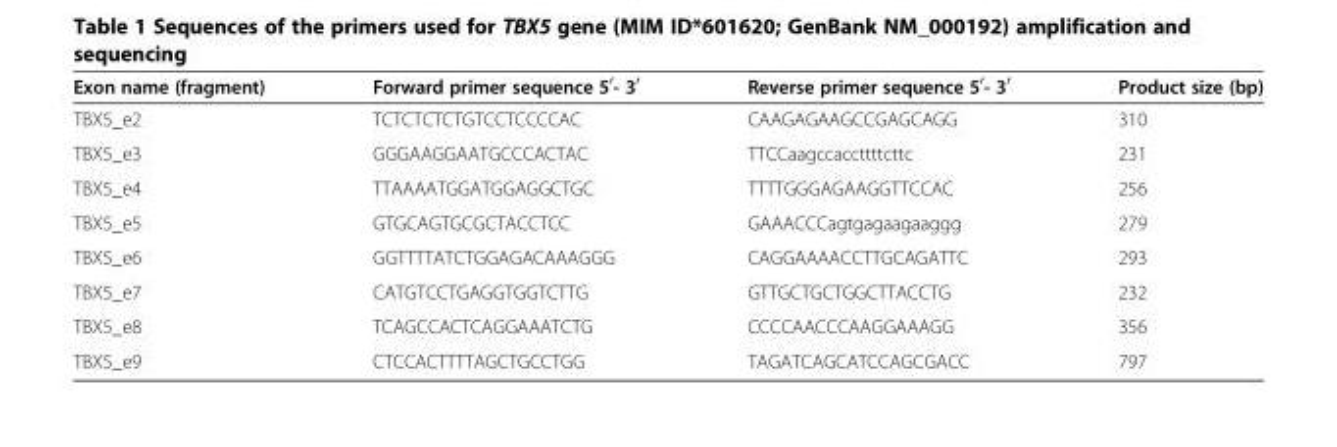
<table><thead><tr><td>Exon name (fragment)</td><td>Forward primer sequence 5<sup>′</sup>- 3<sup>′</sup></td><td>Reverse primer sequence 5<sup>′</sup>- 3<sup>′</sup></td><td>Product size (bp)</td></tr></thead><tbody><tr><td>TBX5_e2</td><td>TCTCTCTCTGTCCTCCCCAC</td><td>CAAGAGAAGCCGAGCAGG</td><td>310</td></tr><tr><td>TBX5_e3</td><td>GGGAAGGAATGCCCACTAC</td><td>TTCCaagccaccttttcttc</td><td>231</td></tr><tr><td>TBX5_e4</td><td>TTAAAATGGATGGAGGCTGC</td><td>TTTTGGGAGAAGGTTCCAC</td><td>256</td></tr><tr><td>TBX5_e5</td><td>GTGCAGTGCGCTACCTCC</td><td>GAAACCCagtgagaagaaggg</td><td>279</td></tr><tr><td>TBX5_e6</td><td>GGTTTTATCTGGAGACAAAGGG</td><td>CAGGAAAACCTTGCAGATTC</td><td>293</td></tr><tr><td>TBX5_e7</td><td>CATGTCCTGAGGTGGTCTTG</td><td>GTTGCTGCTGGCTTACCTG</td><td>232</td></tr><tr><td>TBX5_e8</td><td>TCAGCCACTCAGGAAATCTG</td><td>CCCCAACCCAAGGAAAGG</td><td>356</td></tr><tr><td>TBX5_e9</td><td>CTCCACTTTTAGCTGCCTGG</td><td>TAGATCAGCATCCAGCGACC</td><td>797</td></tr></tbody></table>